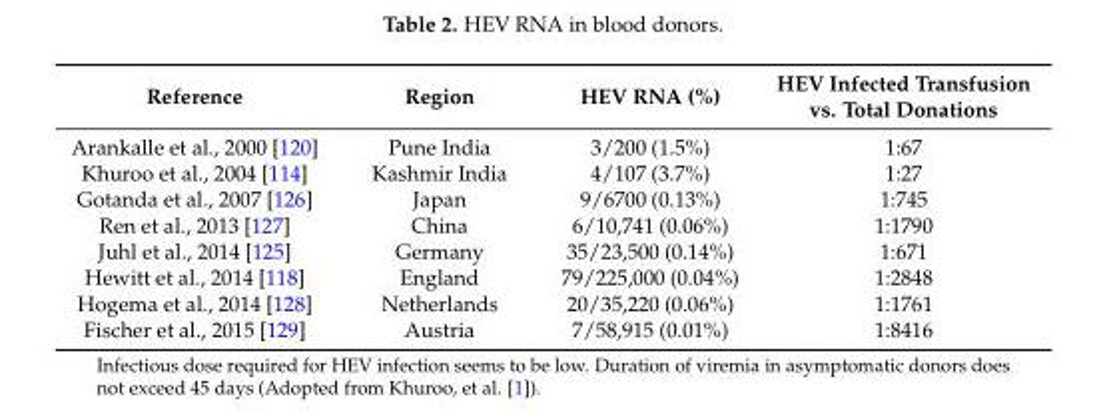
<table><thead><tr><td>Reference</td><td>Region</td><td>HEV RNA (%)</td><td>HEV Infected Transfusion vs. Total Donations</td></tr></thead><tbody><tr><td>Arankalle et al., 2000 [120]</td><td>Pune India</td><td>3/200 (1.5%)</td><td>1:67</td></tr><tr><td>Khuroo et al., 2004 [114]</td><td>Kashmir India</td><td>4/107 (3.7%)</td><td>1:27</td></tr><tr><td>Gotanda et al., 2007 [126]</td><td>Japan</td><td>9/6700 (0.13%)</td><td>1:745</td></tr><tr><td>Ren et al., 2013 [127]</td><td>China</td><td>6/10,741 (0.06%)</td><td>1:1790</td></tr><tr><td>Juhl et al., 2014 [125]</td><td>Germany</td><td>35/23,500 (0.14%)</td><td>1:671</td></tr><tr><td>Hewitt et al., 2014 [118]</td><td>England</td><td>79/225,000 (0.04%)</td><td>1:2848</td></tr><tr><td>Hogema et al., 2014 [128]</td><td>Netherlands</td><td>20/35,220 (0.06%)</td><td>1:1761</td></tr><tr><td>Fischer et al., 2015 [129]</td><td>Austria</td><td>7/58,915 (0.01%)</td><td>1:8416</td></tr></tbody></table>